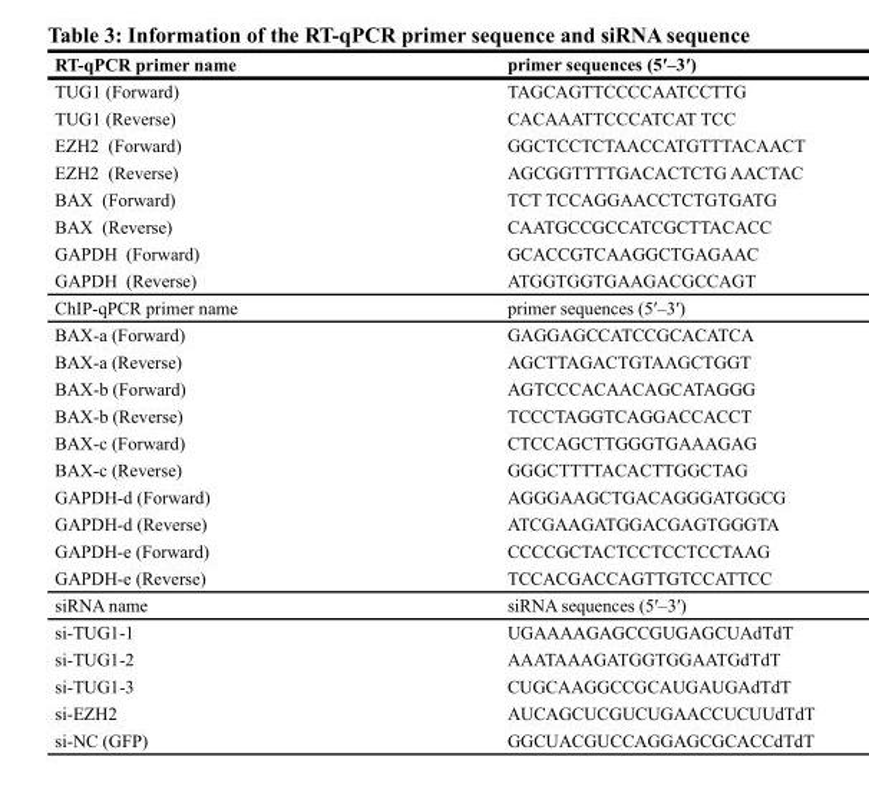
<table><thead><tr><td>RT-qPCR primer name</td><td>primer sequences (5′–3′)</td></tr></thead><tbody><tr><td>TUG1 (Forward)</td><td>TAGCAGTTCCCCAATCCTTG</td></tr><tr><td>TUG1 (Reverse)</td><td>CACAAATTCCCATCAT TCC</td></tr><tr><td>EZH2 (Forward)</td><td>GGCTCCTCTAACCATGTTTACAACT</td></tr><tr><td>EZH2 (Reverse)</td><td>AGCGGTTTTGACACTCTG AACTAC</td></tr><tr><td>BAX (Forward)</td><td>TCT TCCAGGAACCTCTGTGATG</td></tr><tr><td>BAX (Reverse)</td><td>CAATGCCGCCATCGCTTACACC</td></tr><tr><td>GAPDH (Forward)</td><td>GCACCGTCAAGGCTGAGAAC</td></tr><tr><td>GAPDH (Reverse)</td><td>ATGGTGGTGAAGACGCCAGT</td></tr><tr><td>ChIP-qPCR primer name</td><td>primer sequences (5′–3′)</td></tr><tr><td>BAX-a (Forward)</td><td>GAGGAGCCATCCGCACATCA</td></tr><tr><td>BAX-a (Reverse)</td><td>AGCTTAGACTGTAAGCTGGT</td></tr><tr><td>BAX-b (Forward)</td><td>AGTCCCACAACAGCATAGGG</td></tr><tr><td>BAX-b (Reverse)</td><td>TCCCTAGGTCAGGACCACCT</td></tr><tr><td>BAX-c (Forward)</td><td>CTCCAGCTTGGGTGAAAGAG</td></tr><tr><td>BAX-c (Reverse)</td><td>GGGCTTTTACACTTGGCTAG</td></tr><tr><td>GAPDH-d (Forward)</td><td>AGGGAAGCTGACAGGGATGGCG</td></tr><tr><td>GAPDH-d (Reverse)</td><td>ATCGAAGATGGACGAGTGGGTA</td></tr><tr><td>GAPDH-e (Forward)</td><td>CCCCGCTACTCCTCCTCCTAAG</td></tr><tr><td>GAPDH-e (Reverse)</td><td>TCCACGACCAGTTGTCCATTCC</td></tr><tr><td>siRNA name</td><td>siRNA sequences (5′–3′)</td></tr><tr><td>si-TUG1-1</td><td>UGAAAAGAGCCGUGAGCUAdTdT</td></tr><tr><td>si-TUG1-2</td><td>AAATAAAGATGGTGGAATGdTdT</td></tr><tr><td>si-TUG1-3</td><td>CUGCAAGGCCGCAUGAUGAdTdT</td></tr><tr><td>si-EZH2</td><td>AUCAGCUCGUCUGAACCUCUUdTdT</td></tr><tr><td>si-NC (GFP)</td><td>GGCUACGUCCAGGAGCGCACCdTdT</td></tr></tbody></table>